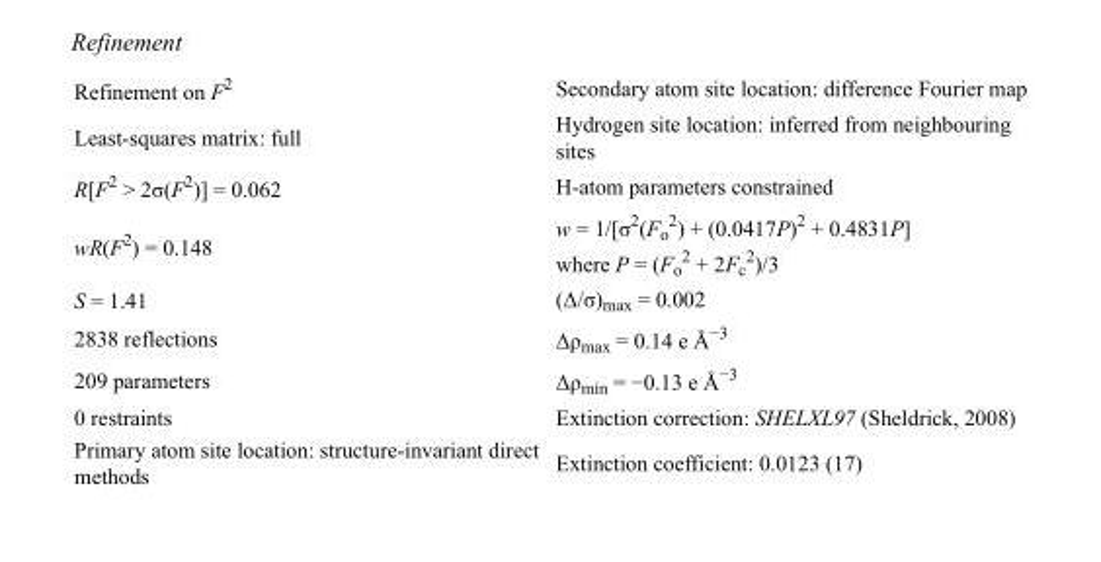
<table><tbody><tr><td>Refinement on F<sup>2</sup></td><td>Secondary atom site location: difference Fourier map</td></tr><tr><td>Least-squares matrix: full</td><td>Hydrogen site location: inferred from neighbouring sites</td></tr><tr><td>R[F<sup>2</sup> &gt; 2σ(F<sup>2</sup>)] = 0.062</td><td>H-atom parameters constrained</td></tr><tr><td>wR(F<sup>2</sup>) = 0.148</td><td>w = 1/[σ<sup>2</sup>(F<sub>o</sub> <sup>2</sup>) + (0.0417P)<sup>2</sup> + 0.4831P] where P = (F<sub>o</sub> <sup>2</sup> + 2F<sub>c</sub> <sup>2</sup>)/3</td></tr><tr><td>S = 1.41</td><td>(Δ/σ)<sub>max</sub> = 0.002</td></tr><tr><td>2838 reflections</td><td>Δρ<sub>max</sub> = 0.14 e Å<sup>−3</sup></td></tr><tr><td>209 parameters</td><td>Δρmin = −0.13 e Å−3</td></tr><tr><td>0 restraints</td><td>Extinction correction: SHELXL97 (Sheldrick, 2008)</td></tr><tr><td>Primary atom site location: structure-invariant direct methods</td><td>Extinction coefficient: 0.0123 (17)</td></tr></tbody></table>